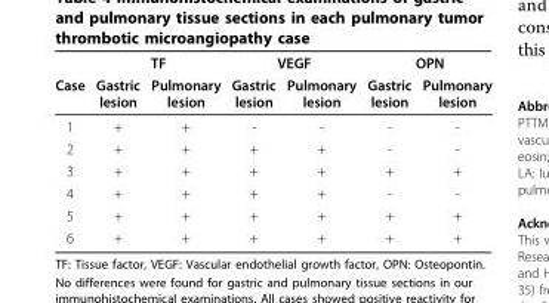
<table><thead><tr><td rowspan="2">Case</td><td colspan="2">TF</td><td colspan="2">VEGF</td><td colspan="2">OPN</td></tr><tr><td>Gastric lesion</td><td>Pulmonary lesion</td><td>Gastric lesion</td><td>Pulmonary lesion</td><td>Gastric lesion</td><td>Pulmonary lesion</td></tr></thead><tbody><tr><td>1</td><td>+</td><td>+</td><td>-</td><td>-</td><td>-</td><td>-</td></tr><tr><td>2</td><td>+</td><td>+</td><td>+</td><td>+</td><td>-</td><td>-</td></tr><tr><td>3</td><td>+</td><td>+</td><td>+</td><td>+</td><td>+</td><td>+</td></tr><tr><td>4</td><td>+</td><td>+</td><td>+</td><td>+</td><td>-</td><td>-</td></tr><tr><td>5</td><td>+</td><td>+</td><td>+</td><td>+</td><td>+</td><td>+</td></tr><tr><td>6</td><td>+</td><td>+</td><td>+</td><td>+</td><td>+</td><td>+</td></tr></tbody></table>